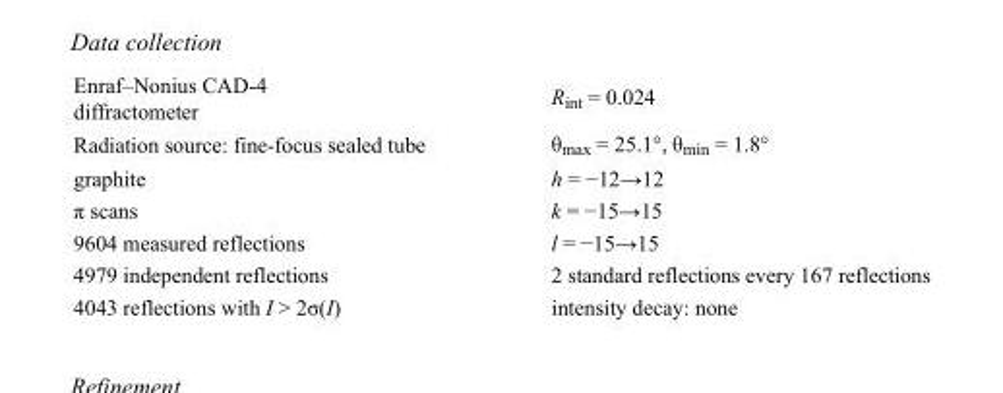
<table><tbody><tr><td>Enraf–Nonius CAD-4 diffractometer</td><td>R<sub>int</sub> = 0.024</td></tr><tr><td>Radiation source: fine-focus sealed tube</td><td>θ<sub>max</sub> = 25.1°, θ<sub>min</sub> = 1.8°</td></tr><tr><td>graphite</td><td>h = −12→12</td></tr><tr><td>π scans</td><td>k = −15→15</td></tr><tr><td>9604 measured reflections</td><td>l = −15→15</td></tr><tr><td>4979 independent reflections</td><td>2 standard reflections every 167 reflections</td></tr><tr><td>4043 reflections with I &gt; 2σ(I)</td><td>intensity decay: none</td></tr></tbody></table>